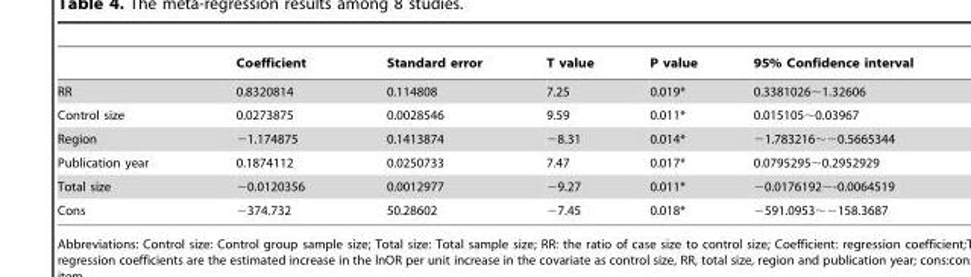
<table><thead><tr><td></td><td>Coefficient</td><td>Standard error</td><td>T value</td><td>P value</td><td>95% Confidence interval</td></tr></thead><tbody><tr><td>RR</td><td>0.8320814</td><td>0.114808</td><td>7.25</td><td>0.019*</td><td>0.3381026∼1.32606</td></tr><tr><td>Control size</td><td>0.0273875</td><td>0.0028546</td><td>9.59</td><td>0.011*</td><td>0.015105∼0.03967</td></tr><tr><td>Region</td><td>−1.174875</td><td>0.1413874</td><td>−8.31</td><td>0.014*</td><td>−1.783216∼−0.5665344</td></tr><tr><td>Publication year</td><td>0.1874112</td><td>0.0250733</td><td>7.47</td><td>0.017*</td><td>0.0795295∼0.2952929</td></tr><tr><td>Total size</td><td>−0.0120356</td><td>0.0012977</td><td>−9.27</td><td>0.011*</td><td>−0.0176192∼-0.0064519</td></tr><tr><td>Cons</td><td>−374.732</td><td>50.28602</td><td>−7.45</td><td>0.018*</td><td>−591.0953∼−158.3687</td></tr></tbody></table>